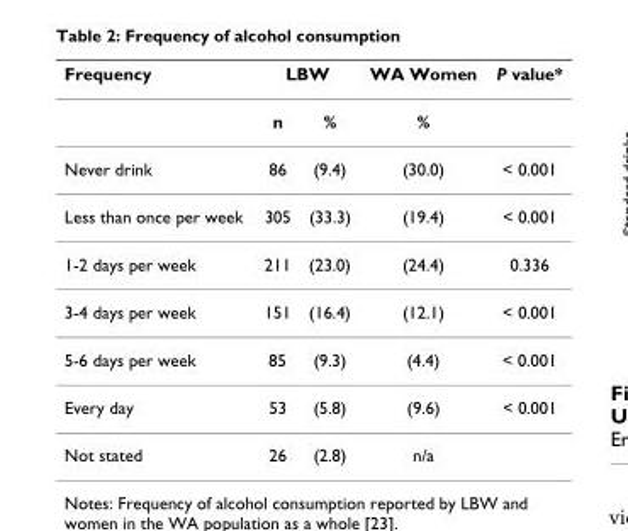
<table><thead><tr><td rowspan="2">Frequency</td><td colspan="2">LBW</td><td rowspan="2">WA Women %</td><td rowspan="2">P value*</td></tr><tr><td>n</td><td>%</td></tr></thead><tbody><tr><td>Never drink</td><td>86</td><td>(9.4)</td><td>(30.0)</td><td>&lt; 0.001</td></tr><tr><td>Less than once per week</td><td>305</td><td>(33.3)</td><td>(19.4)</td><td>&lt; 0.001</td></tr><tr><td>1-2 days per week</td><td>211</td><td>(23.0)</td><td>(24.4)</td><td>0.336</td></tr><tr><td>3-4 days per week</td><td>151</td><td>(16.4)</td><td>(12.1)</td><td>&lt; 0.001</td></tr><tr><td>5-6 days per week</td><td>85</td><td>(9.3)</td><td>(4.4)</td><td>&lt; 0.001</td></tr><tr><td>Every day</td><td>53</td><td>(5.8)</td><td>(9.6)</td><td>&lt; 0.001</td></tr><tr><td>Not stated</td><td>26</td><td>(2.8)</td><td>n/a</td><td></td></tr></tbody></table>